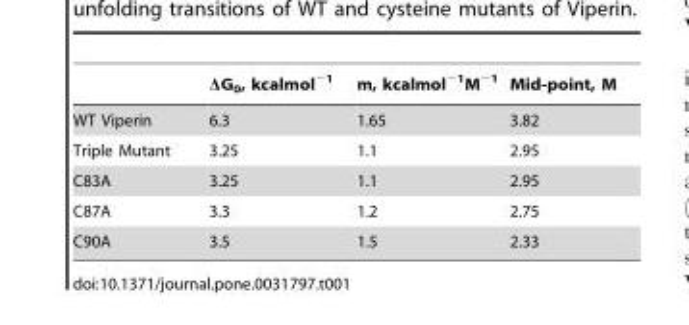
<table><thead><tr><td></td><td>ΔG<sub>0</sub>, kcalmol<sup>−1</sup></td><td>m, kcalmol<sup>−1</sup>M<sup>−1</sup></td><td>Mid-point, M</td></tr></thead><tbody><tr><td>WT Viperin</td><td>6.3</td><td>1.65</td><td>3.82</td></tr><tr><td>Triple Mutant</td><td>3.25</td><td>1.1</td><td>2.95</td></tr><tr><td>C83A</td><td>3.25</td><td>1.1</td><td>2.95</td></tr><tr><td>C87A</td><td>3.3</td><td>1.2</td><td>2.75</td></tr><tr><td>C90A</td><td>3.5</td><td>1.5</td><td>2.33</td></tr></tbody></table>